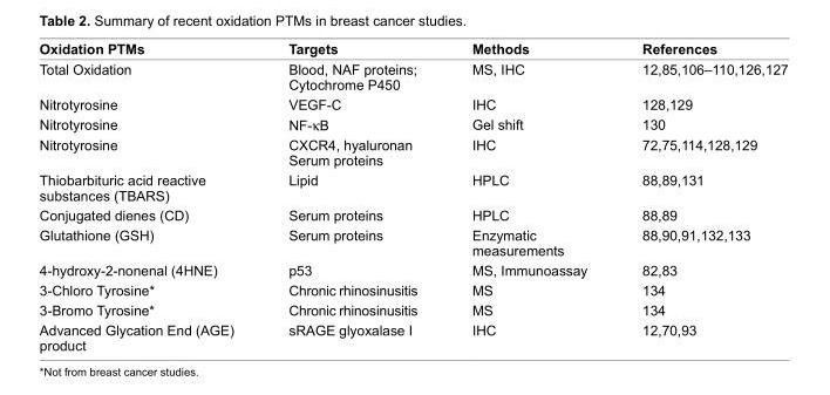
<table><thead><tr><td>Oxidation PTMs</td><td>Targets</td><td>Methods</td><td>References</td></tr></thead><tbody><tr><td>Total Oxidation</td><td>Blood, NAF proteins; Cytochrome P450</td><td>MS, IHC</td><td>12,85,106–110,126,127</td></tr><tr><td>Nitrotyrosine</td><td>veGF-C</td><td>IHC</td><td>128,129</td></tr><tr><td>Nitrotyrosine</td><td>NF-κB</td><td>Gel shift</td><td>130</td></tr><tr><td>Nitrotyrosine</td><td>CXCR4, hyaluronan Serum proteins</td><td>IHC</td><td>72,75,114,128,129</td></tr><tr><td>Thiobarbituric acid reactive substances (TBARS)</td><td>Lipid</td><td>HPLC</td><td>88,89,131</td></tr><tr><td>Conjugated dienes (CD)</td><td>Serum proteins</td><td>HPLC</td><td>88,89</td></tr><tr><td>Glutathione (GSH)</td><td>Serum proteins</td><td>enzymatic measurements</td><td>88,90,91,132,133</td></tr><tr><td>4-hydroxy-2-nonenal (4HNE)</td><td>p53</td><td>MS, Immunoassay</td><td>82,83</td></tr><tr><td>3-Chloro Tyrosine*</td><td>Chronic rhinosinusitis</td><td>MS</td><td>134</td></tr><tr><td>3-Bromo Tyrosine*</td><td>Chronic rhinosinusitis</td><td>MS</td><td>134</td></tr><tr><td>Advanced Glycation end (AGe) product</td><td>sRAGe glyoxalase I</td><td>IHC</td><td>12,70,93</td></tr></tbody></table>